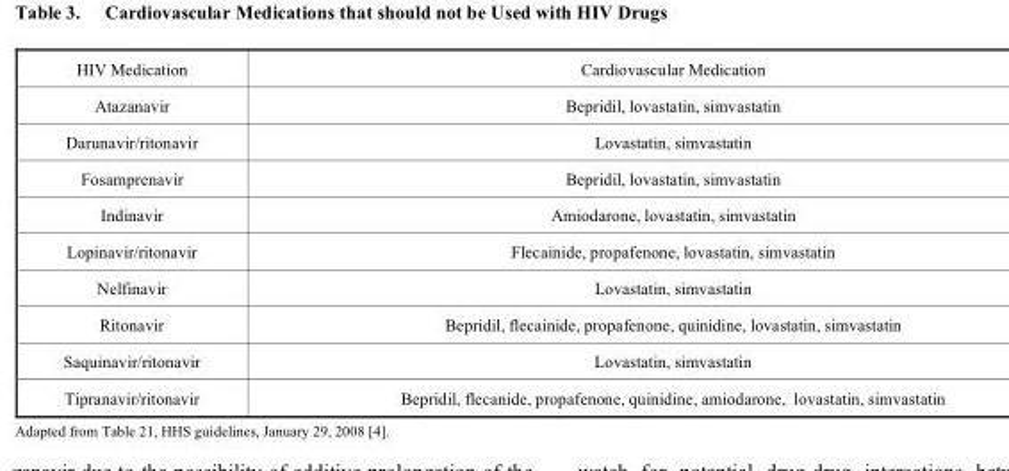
<table><tbody><tr><td>HIV Medication</td><td>Cardiovascular Medication</td></tr><tr><td>Atazanavir</td><td>Bepridil, lovastatin, simvastatin</td></tr><tr><td>Darunavir/ritonavir</td><td>Lovastatin, simvastatin</td></tr><tr><td>Fosamprenavir</td><td>Bepridil, lovastatin, simvastatin</td></tr><tr><td>Indinavir</td><td>Amiodarone, lovastatin, simvastatin</td></tr><tr><td>Lopinavir/ritonavir</td><td>Flecainide, propafenone, lovastatin, simvastatin</td></tr><tr><td>Nelfinavir</td><td>Lovastatin, simvastatin</td></tr><tr><td>Ritonavir</td><td>Bepridil, flecainide, propafenone, quinidine, lovastatin, simvastatin</td></tr><tr><td>Saquinavir/ritonavir</td><td>Lovastatin, simvastatin</td></tr><tr><td>Tipranavir/ritonavir</td><td>Bepridil, flecanide, propafenone, quinidine, amiodarone, lovastatin, simvastatin</td></tr></tbody></table>